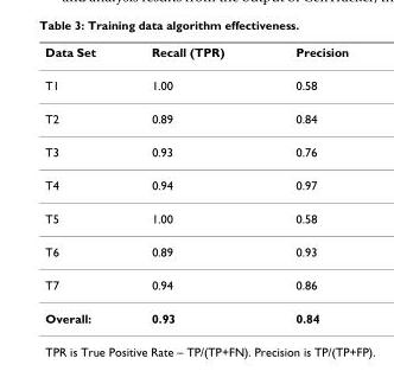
<table><thead><tr><td>Data Set</td><td>Recall (TPR)</td><td>Precision</td></tr></thead><tbody><tr><td>T1</td><td>1.00</td><td>0.58</td></tr><tr><td>T2</td><td>0.89</td><td>0.84</td></tr><tr><td>T3</td><td>0.93</td><td>0.76</td></tr><tr><td>T4</td><td>0.94</td><td>0.97</td></tr><tr><td>T5</td><td>1.00</td><td>0.58</td></tr><tr><td>T6</td><td>0.89</td><td>0.93</td></tr><tr><td>T7</td><td>0.94</td><td>0.86</td></tr><tr><td>Overall:</td><td>0.93</td><td>0.84</td></tr></tbody></table>